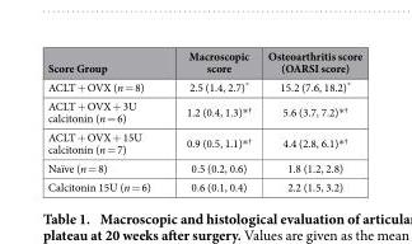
<table><thead><tr><td>Score Group</td><td>Macroscopic score</td><td>Osteoarthritis score (OARSI score)</td></tr></thead><tbody><tr><td>ACLT + OVX (n = 8)</td><td>2.5 (1.4, 2.7)*</td><td>15.2 (7.6, 18.2)*</td></tr><tr><td>ACLT + OVX + 3U calcitonin (n = 6)</td><td>1.2 (0.4, 1.3)* <sup>†</sup></td><td>5.6 (3.7, 7.2)* <sup>†</sup></td></tr><tr><td>ACLT + OVX + 15U calcitonin (n = 7)</td><td>0.9 (0.5, 1.1)* <sup>†</sup></td><td>4.4 (2.8, 6.1)* <sup>†</sup></td></tr><tr><td>Naïve (n = 8)</td><td>0.5 (0.2, 0.6)</td><td>1.8 (1.2, 2.8)</td></tr><tr><td>Calcitonin 15U (n = 6)</td><td>0.6 (0.1, 0.4)</td><td>2.2 (1.5, 3.2)</td></tr></tbody></table>